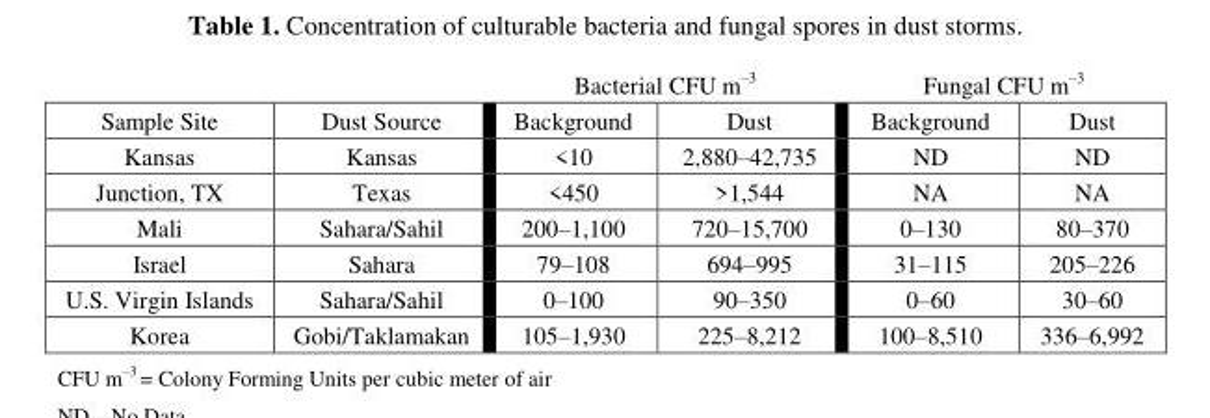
<table><thead><tr><td rowspan="2">Sample Site</td><td rowspan="2">Dust Source</td><td colspan="2">Bacterial CFU m<sup>–3</sup></td><td colspan="2">Fungal CFU m<sup>–3</sup></td></tr><tr><td>Background</td><td>Dust</td><td>Background</td><td>Dust</td></tr></thead><tbody><tr><td>Kansas</td><td>Kansas</td><td>&lt;10</td><td>2,880–42,735</td><td>ND</td><td>ND</td></tr><tr><td>Junction, TX</td><td>Texas</td><td>&lt;450</td><td>&gt;1,544</td><td>NA</td><td>NA</td></tr><tr><td>Mali</td><td>Sahara/Sahil</td><td>200–1,100</td><td>720–15,700</td><td>0–130</td><td>80–370</td></tr><tr><td>Israel</td><td>Sahara</td><td>79–108</td><td>694–995</td><td>31–115</td><td>205–226</td></tr><tr><td>U.S. Virgin Islands</td><td>Sahara/Sahil</td><td>0–100</td><td>90–350</td><td>0–60</td><td>30–60</td></tr><tr><td>Korea</td><td>Gobi/Taklamakan</td><td>105–1,930</td><td>225–8,212</td><td>100–8,510</td><td>336–6,992</td></tr></tbody></table>